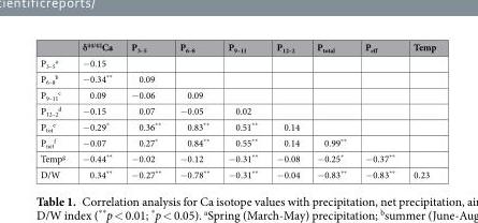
<table><thead><tr><td></td><td>δ<sup>44/42</sup>Ca</td><td>P<sub>3–5</sub></td><td>P<sub>6–8</sub></td><td>P<sub>9–11</sub></td><td>P<sub>12–2</sub></td><td>P<sub>total</sub></td><td>P<sub>eff</sub></td><td>Temp</td></tr></thead><tbody><tr><td>P<sub>3–5</sub> <sup>a</sup></td><td>−0.15</td><td></td><td></td><td></td><td></td><td></td><td></td><td></td></tr><tr><td>P<sub>6–8</sub> <sup>b</sup></td><td>−0.34**</td><td>0.09</td><td></td><td></td><td></td><td></td><td></td><td></td></tr><tr><td>P<sub>9–11</sub> <sup>c</sup></td><td>0.09</td><td>−0.06</td><td>0.09</td><td></td><td></td><td></td><td></td><td></td></tr><tr><td>P<sub>12–2</sub> <sup>d</sup></td><td>−0.15</td><td>0.07</td><td>−0.05</td><td>0.02</td><td></td><td></td><td></td><td></td></tr><tr><td>P<sub>tot</sub> <sup>e</sup></td><td>−0.29*</td><td>0.36**</td><td>0.83**</td><td>0.51**</td><td>0.14</td><td></td><td></td><td></td></tr><tr><td>P<sub>net</sub> <sup>f</sup></td><td>−0.07</td><td>0.27*</td><td>0.84**</td><td>0.55**</td><td>0.14</td><td>0.99**</td><td></td><td></td></tr><tr><td>Temp<sup>g</sup></td><td>−0.44**</td><td>−0.02</td><td>−0.12</td><td>−0.31**</td><td>−0.08</td><td>−0.25*</td><td>−0.37**</td><td></td></tr><tr><td>D/W</td><td>0.34**</td><td>−0.27**</td><td>−0.78**</td><td>−0.31**</td><td>−0.04</td><td>−0.83**</td><td>−0.83**</td><td>0.23</td></tr></tbody></table>